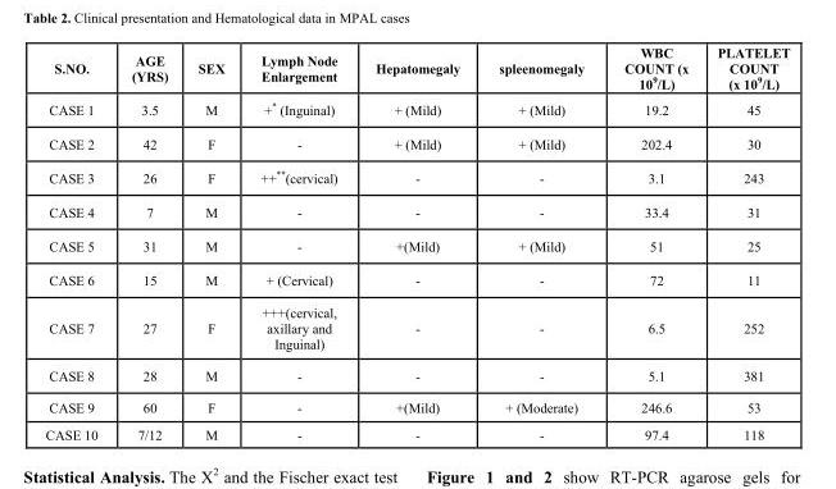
<table><thead><tr><td>S.NO.</td><td>AGE (YRS)</td><td>SEX</td><td>Lymph Node Enlargement</td><td>Hepatomegaly</td><td>spleenomegaly</td><td>WBC COUNT (x 109/L)</td><td>PLATELET COUNT (x 10<sup>9</sup>/L)</td></tr></thead><tbody><tr><td>CASE 1</td><td>3.5</td><td>M</td><td>+* (Inguinal)</td><td>+ (Mild)</td><td>+ (Mild)</td><td>19.2</td><td>45</td></tr><tr><td>CASE 2</td><td>42</td><td>F</td><td>-</td><td>+ (Mild)</td><td>+ (Mild)</td><td>202.4</td><td>30</td></tr><tr><td>CASE 3</td><td>26</td><td>F</td><td>++**(cervical)</td><td>-</td><td>-</td><td>3.1</td><td>243</td></tr><tr><td>CASE 4</td><td>7</td><td>M</td><td>-</td><td>-</td><td>-</td><td>33.4</td><td>31</td></tr><tr><td>CASE 5</td><td>31</td><td>M</td><td>-</td><td>+(Mild)</td><td>+ (Mild)</td><td>51</td><td>25</td></tr><tr><td>CASE 6</td><td>15</td><td>M</td><td>+ (Cervical)</td><td>-</td><td>-</td><td>72</td><td>11</td></tr><tr><td>CASE 7</td><td>27</td><td>F</td><td>+++(cervical, axillary and Inguinal)</td><td>-</td><td>-</td><td>6.5</td><td>252</td></tr><tr><td>CASE 8</td><td>28</td><td>M</td><td>-</td><td>-</td><td>-</td><td>5.1</td><td>381</td></tr><tr><td>CASE 9</td><td>60</td><td>F</td><td>-</td><td>+(Mild)</td><td>+ (Moderate)</td><td>246.6</td><td>53</td></tr><tr><td>CASE 10</td><td>7/12</td><td>M</td><td>-</td><td>-</td><td>-</td><td>97.4</td><td>118</td></tr></tbody></table>